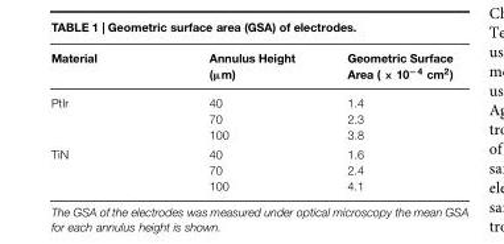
<table><thead><tr><td>Material</td><td>Annulus Height (µm)</td><td>Geometric Surface Area ( × 10<sup>−4</sup> cm<sup>2</sup>)</td></tr></thead><tbody><tr><td>PtIr</td><td>40 70 100</td><td>1.4 2.3 3.8</td></tr><tr><td>TiN</td><td>40 70 100</td><td>1.6 2.4 4.1</td></tr></tbody></table>